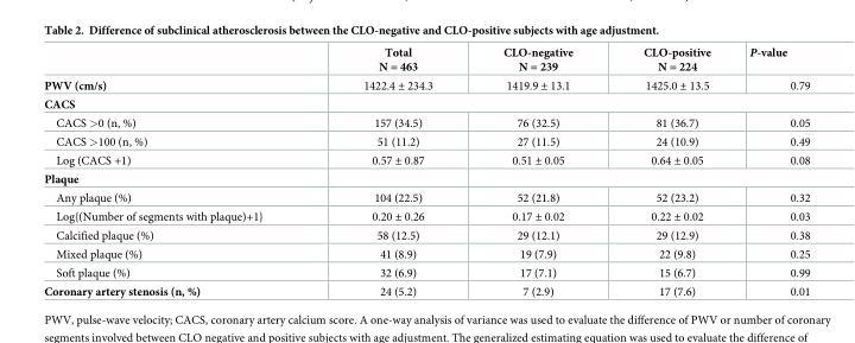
<table><thead><tr><td></td><td>Total N = 463</td><td>CLO-negative N = 239</td><td>CLO-positive N = 224</td><td>P-value</td></tr></thead><tbody><tr><td>PWV (cm/s)</td><td>1422.4 ± 234.3</td><td>1419.9 ± 13.1</td><td>1425.0 ± 13.5</td><td>0.79</td></tr><tr><td colspan="5">CACS</td></tr><tr><td>CACS &gt;0 (n, %)</td><td>157 (34.5)</td><td>76 (32.5)</td><td>81 (36.7)</td><td>0.05</td></tr><tr><td>CACS &gt;100 (n, %)</td><td>51 (11.2)</td><td>27 (11.5)</td><td>24 (10.9)</td><td>0.49</td></tr><tr><td>Log (CACS +1)</td><td>0.57 ± 0.87</td><td>0.51 ± 0.05</td><td>0.64 ± 0.05</td><td>0.08</td></tr><tr><td colspan="5">Plaque</td></tr><tr><td>Any plaque (%)</td><td>104 (22.5)</td><td>52 (21.8)</td><td>52 (23.2)</td><td>0.32</td></tr><tr><td>Log{(Number of segments with plaque)+1}</td><td>0.20 ± 0.26</td><td>0.17 ± 0.02</td><td>0.22 ± 0.02</td><td>0.03</td></tr><tr><td>Calcified plaque (%)</td><td>58 (12.5)</td><td>29 (12.1)</td><td>29 (12.9)</td><td>0.38</td></tr><tr><td>Mixed plaque (%)</td><td>41 (8.9)</td><td>19 (7.9)</td><td>22 (9.8)</td><td>0.25</td></tr><tr><td>Soft plaque (%)</td><td>32 (6.9)</td><td>17 (7.1)</td><td>15 (6.7)</td><td>0.99</td></tr><tr><td>Coronary artery stenosis (n, %)</td><td>24 (5.2)</td><td>7 (2.9)</td><td>17 (7.6)</td><td>0.01</td></tr></tbody></table>